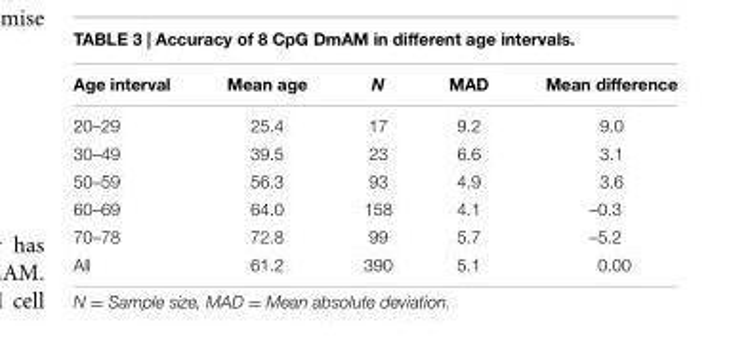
<table><thead><tr><td>Age interval</td><td>Mean age</td><td>N</td><td>MAD</td><td>Mean difference</td></tr></thead><tbody><tr><td>20–29</td><td>25.4</td><td>17</td><td>9.2</td><td>9.0</td></tr><tr><td>30–49</td><td>39.5</td><td>23</td><td>6.6</td><td>3.1</td></tr><tr><td>50–59</td><td>56.3</td><td>93</td><td>4.9</td><td>3.6</td></tr><tr><td>60–69</td><td>64.0</td><td>158</td><td>4.1</td><td>–0.3</td></tr><tr><td>70–78</td><td>72.8</td><td>99</td><td>5.7</td><td>–5.2</td></tr><tr><td>All</td><td>61.2</td><td>390</td><td>5.1</td><td>0.00</td></tr></tbody></table>